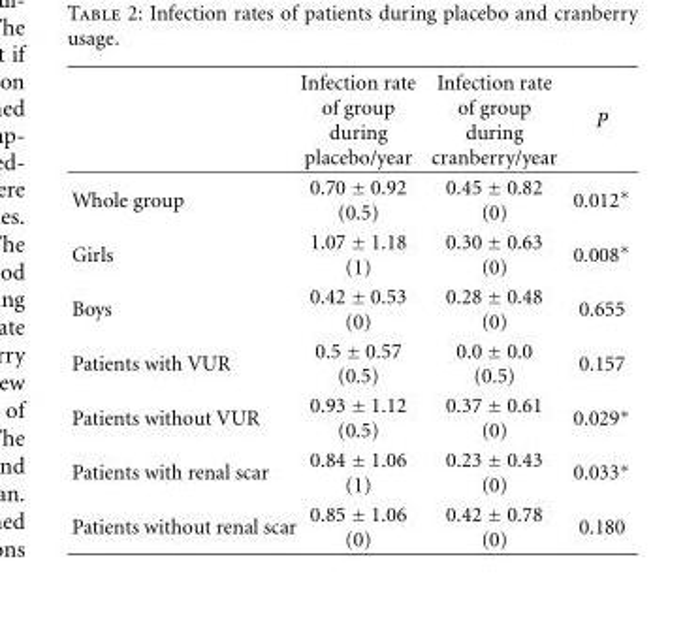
<table><thead><tr><td></td><td>Infection rate of group during placebo/year</td><td>Infection rate of group during cranberry/year</td><td>P</td></tr></thead><tbody><tr><td>Whole group</td><td>0.70 ± 0.92 (0.5)</td><td>0.45 ± 0.82 (0)</td><td>0.012∗</td></tr><tr><td>Girls</td><td>1.07 ± 1.18 (1)</td><td>0.30 ± 0.63 (0)</td><td>0.008∗</td></tr><tr><td>Boys</td><td>0.42 ± 0.53 (0)</td><td>0.28 ± 0.48 (0)</td><td>0.655</td></tr><tr><td>Patients with VUR</td><td>0.5 ± 0.57 (0.5)</td><td>0.0 ± 0.0 (0.5)</td><td>0.157</td></tr><tr><td>Patients without VUR</td><td>0.93 ± 1.12 (0.5)</td><td>0.37 ± 0.61 (0)</td><td>0.029∗</td></tr><tr><td>Patients with renal scar</td><td>0.84 ± 1.06 (1)</td><td>0.23 ± 0.43 (0)</td><td>0.033∗</td></tr><tr><td>Patients without renal scar</td><td>0.85 ± 1.06 (0)</td><td>0.42 ± 0.78 (0)</td><td>0.180</td></tr></tbody></table>